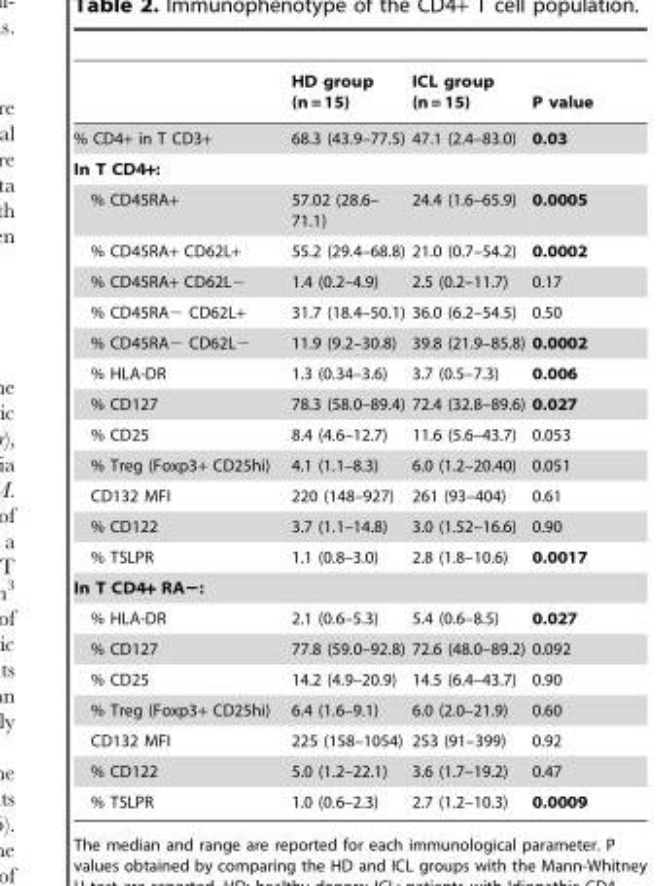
<table><thead><tr><td></td><td>HD group (n = 15)</td><td>ICL group (n = 15)</td><td>P value</td></tr></thead><tbody><tr><td>% CD4+ in T CD3+</td><td>68.3 (43.9–77.5)</td><td>47.1 (2.4–83.0)</td><td>0.03</td></tr><tr><td colspan="4">In T CD4+:</td></tr><tr><td>% CD45RA+</td><td>57.02 (28.6– 71.1)</td><td>24.4 (1.6–65.9)</td><td>0.0005</td></tr><tr><td>% CD45RA+ CD62L+</td><td>55.2 (29.4–68.8)</td><td>21.0 (0.7–54.2)</td><td>0.0002</td></tr><tr><td>% CD45RA+ CD62L−</td><td>1.4 (0.2–4.9)</td><td>2.5 (0.2–11.7)</td><td>0.17</td></tr><tr><td>% CD45RA− CD62L+</td><td>31.7 (18.4–50.1)</td><td>36.0 (6.2–54.5)</td><td>0.50</td></tr><tr><td>% CD45RA− CD62L−</td><td>11.9 (9.2–30.8)</td><td>39.8 (21.9–85.8)</td><td>0.0002</td></tr><tr><td>% HLA-DR</td><td>1.3 (0.34–3.6)</td><td>3.7 (0.5–7.3)</td><td>0.006</td></tr><tr><td>% CD127</td><td>78.3 (58.0–89.4)</td><td>72.4 (32.8–89.6)</td><td>0.027</td></tr><tr><td>% CD25</td><td>8.4 (4.6–12.7)</td><td>11.6 (5.6–43.7)</td><td>0.053</td></tr><tr><td>% Treg (Foxp3+ CD25hi)</td><td>4.1 (1.1–8.3)</td><td>6.0 (1.2–20.40)</td><td>0.051</td></tr><tr><td>CD132 MFI</td><td>220 (148–927)</td><td>261 (93–404)</td><td>0.61</td></tr><tr><td>% CD122</td><td>3.7 (1.1–14.8)</td><td>3.0 (1.52–16.6)</td><td>0.90</td></tr><tr><td>% TSLPR</td><td>1.1 (0.8–3.0)</td><td>2.8 (1.8–10.6)</td><td>0.0017</td></tr><tr><td colspan="4">In T CD4+ RA−:</td></tr><tr><td>% HLA-DR</td><td>2.1 (0.6–5.3)</td><td>5.4 (0.6–8.5)</td><td>0.027</td></tr><tr><td>% CD127</td><td>77.8 (59.0–92.8)</td><td>72.6 (48.0–89.2)</td><td>0.092</td></tr><tr><td>% CD25</td><td>14.2 (4.9–20.9)</td><td>14.5 (6.4–43.7)</td><td>0.90</td></tr><tr><td>% Treg (Foxp3+ CD25hi)</td><td>6.4 (1.6–9.1)</td><td>6.0 (2.0–21.9)</td><td>0.60</td></tr><tr><td>CD132 MFI</td><td>225 (158–1054)</td><td>253 (91–399)</td><td>0.92</td></tr><tr><td>% CD122</td><td>5.0 (1.2–22.1)</td><td>3.6 (1.7–19.2)</td><td>0.47</td></tr><tr><td>% TSLPR</td><td>1.0 (0.6–2.3)</td><td>2.7 (1.2–10.3)</td><td>0.0009</td></tr></tbody></table>